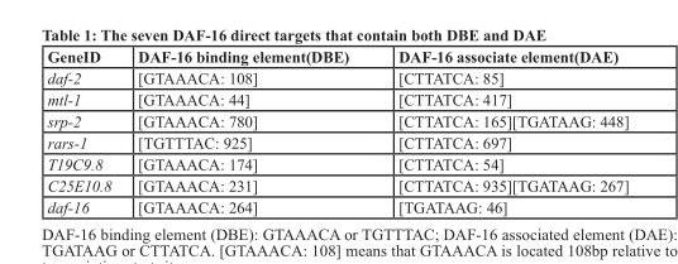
<table><thead><tr><td>GeneID</td><td>DAF-16 binding element(DBE)</td><td>DAF-16 associate element(DAE)</td></tr></thead><tbody><tr><td>daf-2</td><td>[GTAAACA: 108]</td><td>[CTTATCA: 85]</td></tr><tr><td>mtl-1</td><td>[GTAAACA: 44]</td><td>[CTTATCA: 417]</td></tr><tr><td>srp-2</td><td>[GTAAACA: 780]</td><td>[CTTATCA: 165][TGATAAG: 448]</td></tr><tr><td>rars-1</td><td>[TGTTTAC: 925]</td><td>[CTTATCA: 697]</td></tr><tr><td>T19C9.8</td><td>[GTAAACA: 174]</td><td>[CTTATCA: 54]</td></tr><tr><td>C25E10.8</td><td>[GTAAACA: 231]</td><td>[CTTATCA: 935][TGATAAG: 267]</td></tr><tr><td>daf-16</td><td>[GTAAACA: 264]</td><td>[TGATAAG: 46]</td></tr></tbody></table>